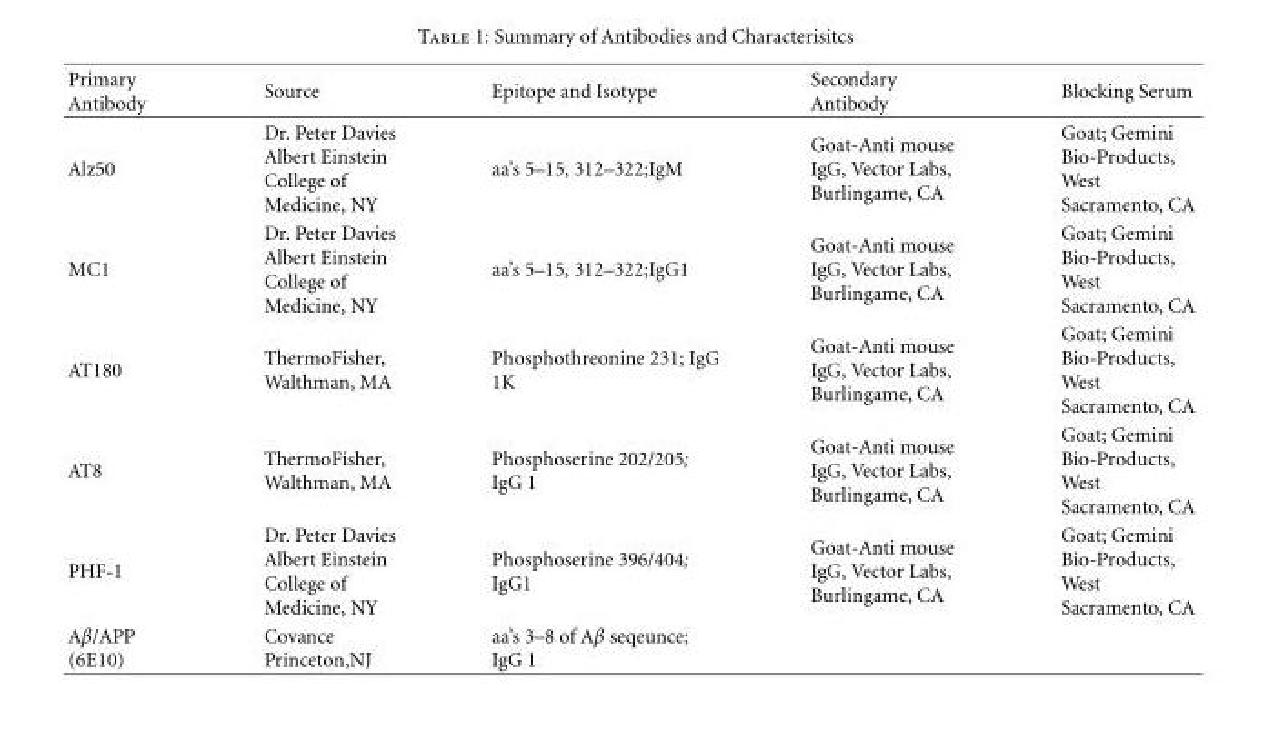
<table><thead><tr><td>Primary Antibody</td><td>Source</td><td>Epitope and Isotype</td><td>Secondary Antibody</td><td>Blocking Serum</td></tr></thead><tbody><tr><td>Alz50</td><td>Dr. Peter Davies Albert Einstein College of Medicine, NY</td><td>aa’s 5–15, 312–322;IgM</td><td>Goat-Anti mouse IgG, Vector Labs, Burlingame, CA</td><td>Goat; Gemini Bio-Products, West Sacramento, CA</td></tr><tr><td>MC1</td><td>Dr. Peter Davies Albert Einstein College of Medicine, NY</td><td>aa’s 5–15, 312–322;IgG1</td><td>Goat-Anti mouse IgG, Vector Labs, Burlingame, CA</td><td>Goat; Gemini Bio-Products, West Sacramento, CA</td></tr><tr><td>AT180</td><td>ThermoFisher, Walthman, MA</td><td>Phosphothreonine 231; IgG 1K</td><td>Goat-Anti mouse IgG, Vector Labs, Burlingame, CA</td><td>Goat; Gemini Bio-Products, West Sacramento, CA</td></tr><tr><td>AT8</td><td>ThermoFisher, Walthman, MA</td><td>Phosphoserine 202/205; IgG 1</td><td>Goat-Anti mouse IgG, Vector Labs, Burlingame, CA</td><td>Goat; Gemini Bio-Products, West Sacramento, CA</td></tr><tr><td>PHF-1</td><td>Dr. Peter Davies Albert Einstein College of Medicine, NY</td><td>Phosphoserine 396/404; IgG1</td><td>Goat-Anti mouse IgG, Vector Labs, Burlingame, CA</td><td>Goat; Gemini Bio-Products, West Sacramento, CA</td></tr><tr><td>Aβ/APP (6E10)</td><td>Covance Princeton,NJ</td><td>aa’s 3–8 of Aβ seqeunce; IgG 1</td><td></td><td></td></tr></tbody></table>